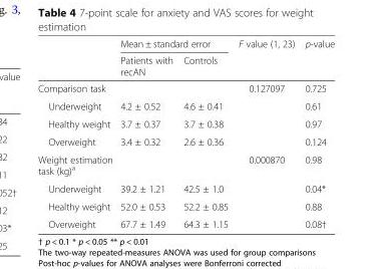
<table><thead><tr><td rowspan="2"></td><td colspan="2">Mean ± standard error</td><td rowspan="2">F value (1, 23)</td><td rowspan="2">p-value</td></tr><tr><td>Patients with recAN</td><td>Controls</td></tr></thead><tbody><tr><td colspan="3">Comparison task</td><td rowspan="4">0.127097</td><td>0.725</td></tr><tr><td>Underweight</td><td>4.2 ± 0.52</td><td>4.6 ± 0.41</td><td>0.61</td></tr><tr><td>Healthy weight</td><td>3.7 ± 0.37</td><td>3.7 ± 0.38</td><td>0.97</td></tr><tr><td>Overweight</td><td>3.4 ± 0.32</td><td>2.6 ± 0.36</td><td>0.124</td></tr><tr><td colspan="3">Weight estimation task (kg)<sup>a</sup></td><td rowspan="4">0.000870</td><td>0.98</td></tr><tr><td>Underweight</td><td>39.2 ± 1.21</td><td>42.5 ± 1.0</td><td>0.04*</td></tr><tr><td>Healthy weight</td><td>52.0 ± 0.53</td><td>52.2 ± 0.85</td><td>0.88</td></tr><tr><td>Overweight</td><td>67.7 ± 1.49</td><td>64.3 ± 1.15</td><td>0.08†</td></tr></tbody></table>